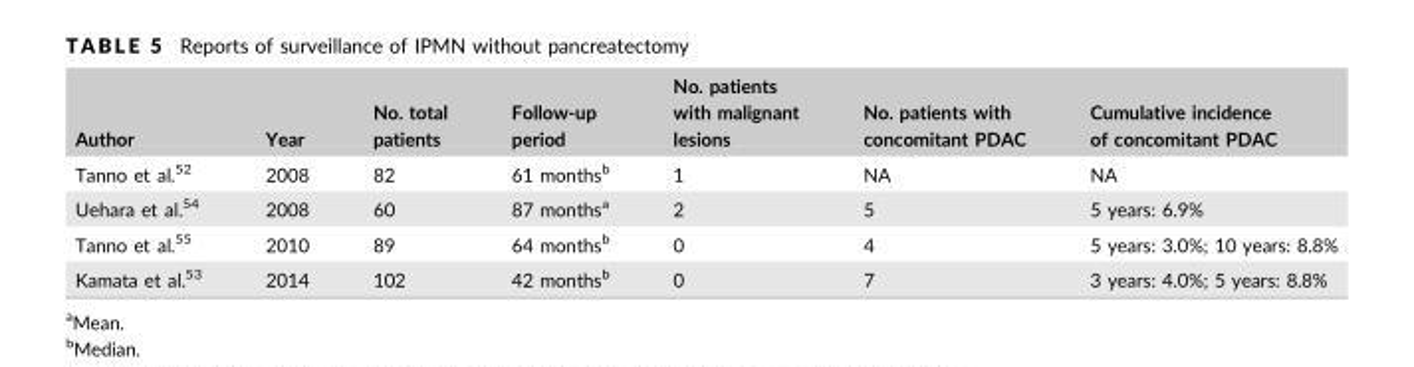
<table><thead><tr><td>Author</td><td>Year</td><td>No. total patients</td><td>Follow-up period</td><td>No. patients with malignant lesions</td><td>No. patients with concomitant PDAC</td><td>Cumulative incidence of concomitant PDAC</td></tr></thead><tbody><tr><td>Tanno et al.<sup>52</sup></td><td>2008</td><td>82</td><td>61 months<sup>b</sup></td><td>1</td><td>NA</td><td>NA</td></tr><tr><td>Uehara et al.<sup>54</sup></td><td>2008</td><td>60</td><td>87 months<sup>a</sup></td><td>2</td><td>5</td><td>5 years: 6.9%</td></tr><tr><td>Tanno et al.<sup>55</sup></td><td>2010</td><td>89</td><td>64 months<sup>b</sup></td><td>0</td><td>4</td><td>5 years: 3.0%; 10 years: 8.8%</td></tr><tr><td>Kamata et al.<sup>53</sup></td><td>2014</td><td>102</td><td>42 months<sup>b</sup></td><td>0</td><td>7</td><td>3 years: 4.0%; 5 years: 8.8%</td></tr></tbody></table>